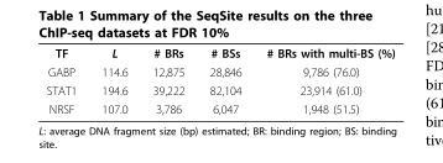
<table><tbody><tr><td>TF</td><td>L</td><td># BRs</td><td># BSs</td><td># BRs with multi-BS (%)</td></tr><tr><td>GABP</td><td>114.6</td><td>12,875</td><td>28,846</td><td>9,786 (76.0)</td></tr><tr><td>STAT1</td><td>194.6</td><td>39,222</td><td>82,104</td><td>23,914 (61.0)</td></tr><tr><td>NRSF</td><td>107.0</td><td>3,786</td><td>6,047</td><td>1,948 (51.5)</td></tr></tbody></table>